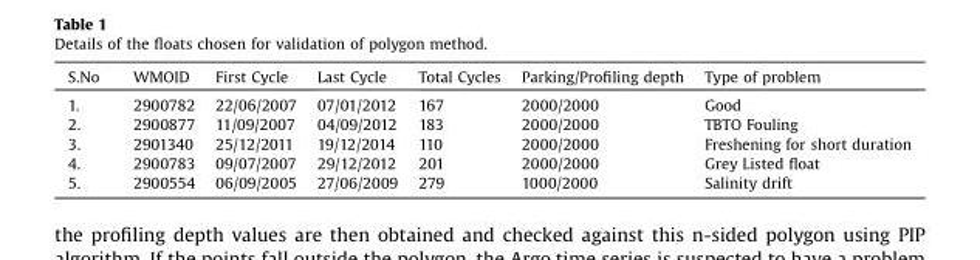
<table><thead><tr><td>S.No</td><td>WMOID</td><td>First Cycle</td><td>Last Cycle</td><td>Total Cycles</td><td>Parking/Profiling depth</td><td>Type of problem</td></tr></thead><tbody><tr><td>1.</td><td>2900782</td><td>22/06/2007</td><td>07/01/2012</td><td>167</td><td>2000/2000</td><td>Good</td></tr><tr><td>2.</td><td>2900877</td><td>11/09/2007</td><td>04/09/2012</td><td>183</td><td>2000/2000</td><td>TBTO Fouling</td></tr><tr><td>3.</td><td>2901340</td><td>25/12/2011</td><td>19/12/2014</td><td>110</td><td>2000/2000</td><td>Freshening for short duration</td></tr><tr><td>4.</td><td>2900783</td><td>09/07/2007</td><td>29/12/2012</td><td>201</td><td>2000/2000</td><td>Grey Listed float</td></tr><tr><td>5.</td><td>2900554</td><td>06/09/2005</td><td>27/06/2009</td><td>279</td><td>1000/2000</td><td>Salinity drift</td></tr></tbody></table>